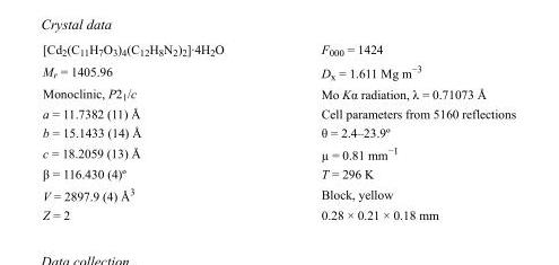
<table><tbody><tr><td>[Cd<sub>2</sub>(C<sub>11</sub>H<sub>7</sub>O<sub>3</sub>)<sub>4</sub>(C<sub>12</sub>H<sub>8</sub>N<sub>2</sub>)<sub>2</sub>]·4H<sub>2</sub>O</td><td>F000 = 1424</td></tr><tr><td>M<sub>r</sub> = 1405.96</td><td>D<sub>x</sub> = 1.611 Mg m<sup>−3</sup></td></tr><tr><td>Monoclinic, P2<sub>1</sub>/c</td><td>Mo Kα radiation, λ = 0.71073 Å</td></tr><tr><td>a = 11.7382 (11) Å</td><td>Cell parameters from 5160 reflections</td></tr><tr><td>b = 15.1433 (14) Å</td><td>θ = 2.4–23.9º</td></tr><tr><td>c = 18.2059 (13) Å</td><td>µ = 0.81 mm<sup>−1</sup></td></tr><tr><td>β = 116.430 (4)º</td><td>T = 296 K</td></tr><tr><td>V = 2897.9 (4) Å<sup>3</sup></td><td>Block, yellow</td></tr><tr><td>Z = 2</td><td>0.28 × 0.21 × 0.18 mm</td></tr></tbody></table>